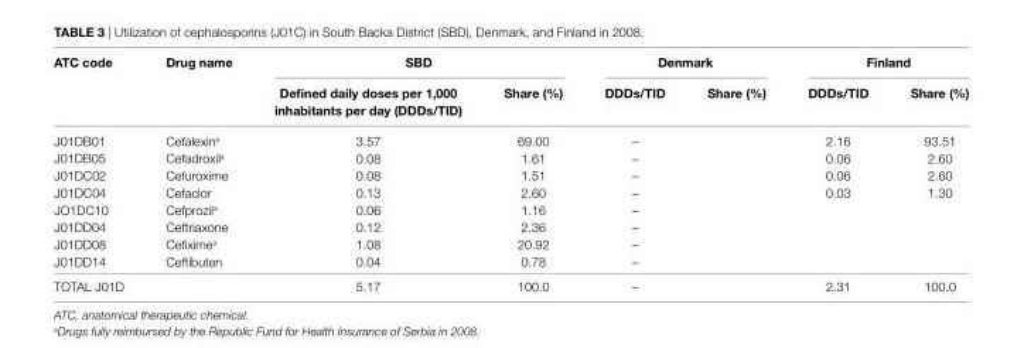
<table><thead><tr><td rowspan="2">aTc code</td><td rowspan="2">Drug name</td><td colspan="2">sBD</td><td colspan="2">Denmark</td><td colspan="2">Finland</td></tr><tr><td>Defined daily doses per 1,000 inhabitants per day (DDDs/TiD)</td><td>share (%)</td><td>DDDs/TiD</td><td>share (%)</td><td>DDDs/TiD</td><td>share (%)</td></tr></thead><tbody><tr><td>J01DB01</td><td>Cefalexin<sup>a</sup></td><td>3.57</td><td>69.00</td><td>–</td><td></td><td>2.16</td><td>93.51</td></tr><tr><td>J01DB05</td><td>Cefadroxil<sup>a</sup></td><td>0.08</td><td>1.61</td><td>–</td><td></td><td>0.06</td><td>2.60</td></tr><tr><td>J01DC02</td><td>Cefuroxime</td><td>0.08</td><td>1.51</td><td>–</td><td></td><td>0.06</td><td>2.60</td></tr><tr><td>J01DC04</td><td>Cefaclor</td><td>0.13</td><td>2.60</td><td>–</td><td></td><td>0.03</td><td>1.30</td></tr><tr><td>JO1DC10</td><td>Cefprozil<sup>a</sup></td><td>0.06</td><td>1.16</td><td>–</td><td></td><td></td><td></td></tr><tr><td>J01DD04</td><td>Ceftriaxone</td><td>0.12</td><td>2.36</td><td>–</td><td></td><td></td><td></td></tr><tr><td>J01DD08</td><td>Cefixime<sup>a</sup></td><td>1.08</td><td>20.92</td><td>–</td><td></td><td></td><td></td></tr><tr><td>J01DD14</td><td>Ceftibuten</td><td>0.04</td><td>0.78</td><td>–</td><td></td><td></td><td></td></tr><tr><td>TOTAL J01D</td><td></td><td>5.17</td><td>100.0</td><td>–</td><td></td><td>2.31</td><td>100.0</td></tr></tbody></table>